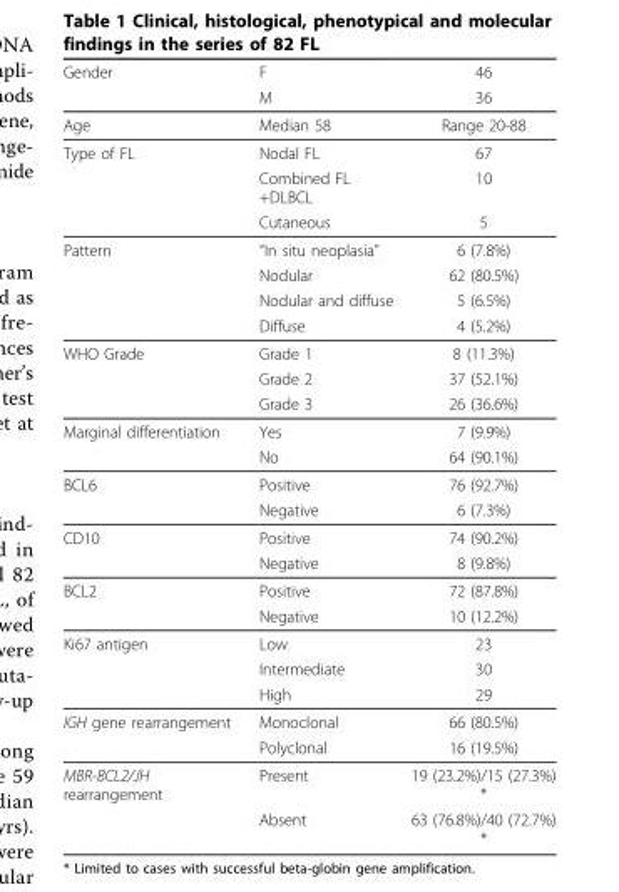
<table><thead><tr><td rowspan="2">Gender</td><td rowspan="2">F M</td><td rowspan="2">46 36</td></tr><tr></tr></thead><tbody><tr><td>Age</td><td>Median 58</td><td>Range 20-88</td></tr><tr><td rowspan="3">Type of FL</td><td>Nodal FL</td><td>67</td></tr><tr><td>Combined FL +DLBCL</td><td>10</td></tr><tr><td>Cutaneous</td><td>5</td></tr><tr><td rowspan="4">Pattern</td><td>“In situ neoplasia”</td><td>6 (7.8%)</td></tr><tr><td>Nodular</td><td>62 (80.5%)</td></tr><tr><td>Nodular and diffuse</td><td>5 (6.5%)</td></tr><tr><td>Diffuse</td><td>4 (5.2%)</td></tr><tr><td rowspan="3">WHO Grade</td><td>Grade 1</td><td>8 (11.3%)</td></tr><tr><td>Grade 2</td><td>37 (52.1%)</td></tr><tr><td>Grade 3</td><td>26 (36.6%)</td></tr><tr><td rowspan="2">Marginal differentiation</td><td>Yes</td><td>7 (9.9%)</td></tr><tr><td>No</td><td>64 (90.1%)</td></tr><tr><td rowspan="2">BCL6</td><td>Positive</td><td>76 (92.7%)</td></tr><tr><td>Negative</td><td>6 (7.3%)</td></tr><tr><td rowspan="2">CD10</td><td>Positive</td><td>74 (90.2%)</td></tr><tr><td>Negative</td><td>8 (9.8%)</td></tr><tr><td rowspan="2">BCL2</td><td>Positive</td><td>72 (87.8%)</td></tr><tr><td>Negative</td><td>10 (12.2%)</td></tr><tr><td rowspan="3">Ki67 antigen</td><td>Low</td><td>23</td></tr><tr><td>Intermediate</td><td>30</td></tr><tr><td>High</td><td>29</td></tr><tr><td rowspan="2">IGH gene rearrangement</td><td>Monoclonal</td><td>66 (80.5%)</td></tr><tr><td>Polyclonal</td><td>16 (19.5%)</td></tr><tr><td rowspan="2">MBR-BCL2/JH rearrangement</td><td>Present</td><td>19 (23.2%)/15 (27.3%) *</td></tr><tr><td>Absent</td><td>63 (76.8%)/40 (72.7%)</td></tr></tbody></table>